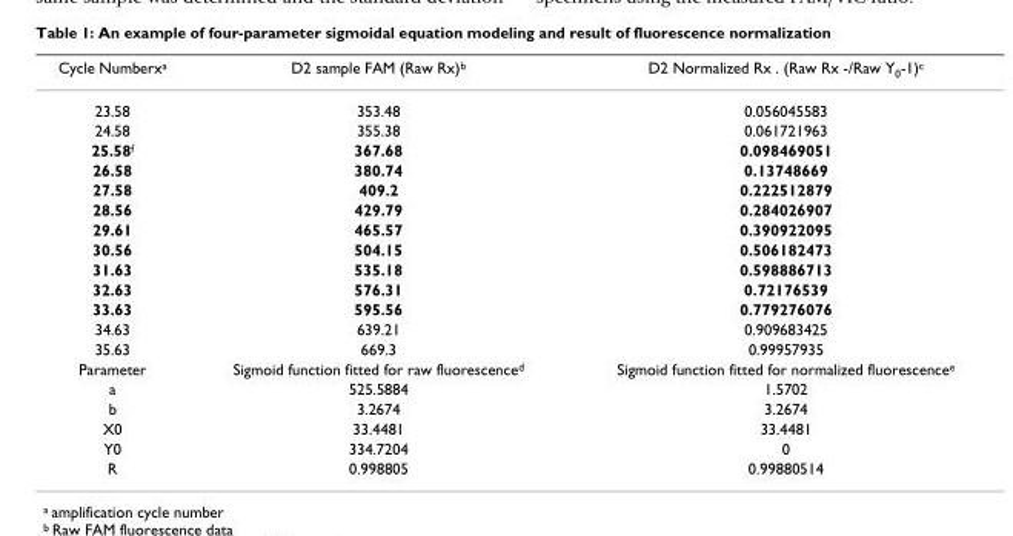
<table><thead><tr><td>Cycle Numberxa</td><td>D2 sample FAM (Raw Rx)b</td><td>D2 Normalized Rx . (Raw Rx -/Raw Y0-1)c</td></tr></thead><tbody><tr><td>23.58</td><td>353.48</td><td>0.056045583</td></tr><tr><td>24.58</td><td>355.38</td><td>0.061721963</td></tr><tr><td>25.58f</td><td>367.68</td><td>0.098469051</td></tr><tr><td>26.58</td><td>380.74</td><td>0.13748669</td></tr><tr><td>27.58</td><td>409.2</td><td>0.222512879</td></tr><tr><td>28.56</td><td>429.79</td><td>0.284026907</td></tr><tr><td>29.61</td><td>465.57</td><td>0.390922095</td></tr><tr><td>30.56</td><td>504.15</td><td>0.506182473</td></tr><tr><td>31.63</td><td>535.18</td><td>0.598886713</td></tr><tr><td>32.63</td><td>576.31</td><td>0.72176539</td></tr><tr><td>33.63</td><td>595.56</td><td>0.779276076</td></tr><tr><td>34.63</td><td>639.21</td><td>0.909683425</td></tr><tr><td>35.63</td><td>669.3</td><td>0.99957935</td></tr><tr><td>Parameter</td><td>Sigmoid function fitted for raw fluorescenced</td><td>Sigmoid function fitted for normalized fluorescencee</td></tr><tr><td>a</td><td>525.5884</td><td>1.5702</td></tr><tr><td>b</td><td>3.2674</td><td>3.2674</td></tr><tr><td>X0</td><td>33.4481</td><td>33.4481</td></tr><tr><td>Y0</td><td>334.7204</td><td>0</td></tr><tr><td>R</td><td>0.998805</td><td>0.99880514</td></tr></tbody></table>